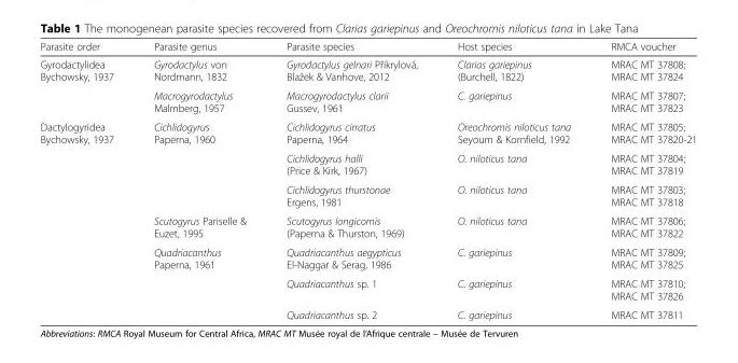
<table><thead><tr><td>Parasite order</td><td>Parasite genus</td><td>Parasite species</td><td>Host species</td><td>RMCA voucher</td></tr></thead><tbody><tr><td rowspan="2">Gyrodactylidea Bychowsky, 1937</td><td>Gyrodactylus von Nordmann, 1832</td><td>Gyrodactylus gelnari Přikrylová, Blažek &amp; Vanhove, 2012</td><td>Clarias gariepinus (Burchell, 1822)</td><td>MRAC MT 37808; MRAC MT 37824</td></tr><tr><td>Macrogyrodactylus Malmberg, 1957</td><td>Macrogyrodactylus clarii Gussev, 1961</td><td>C. gariepinus</td><td>MRAC MT 37807; MRAC MT 37823</td></tr><tr><td rowspan="7">Dactylogyridea Bychowsky, 1937</td><td>Cichlidogyrus Paperna, 1960</td><td>Cichlidogyrus cirratus Paperna, 1964</td><td>Oreochromis niloticus tana Seyoum &amp; Kornfield, 1992</td><td>MRAC MT 37805; MRAC MT 37820-21</td></tr><tr><td></td><td>Cichlidogyrus halli (Price &amp; Kirk, 1967)</td><td>O. niloticus tana</td><td>MRAC MT 37804; MRAC MT 37819</td></tr><tr><td></td><td>Cichlidogyrus thurstonae Ergens, 1981</td><td>O. niloticus tana</td><td>MRAC MT 37803; MRAC MT 37818</td></tr><tr><td>Scutogyrus Pariselle &amp; Euzet, 1995</td><td>Scutogyrus longicornis (Paperna &amp; Thurston, 1969)</td><td>O. niloticus tana</td><td>MRAC MT 37806; MRAC MT 37822</td></tr><tr><td>Quadriacanthus Paperna, 1961</td><td>Quadriacanthus aegypticus El-Naggar &amp; Serag, 1986</td><td>C. gariepinus</td><td>MRAC MT 37809; MRAC MT 37825</td></tr><tr><td></td><td>Quadriacanthus sp. 1</td><td>C. gariepinus</td><td>MRAC MT 37810; MRAC MT 37826</td></tr><tr><td></td><td>Quadriacanthus sp. 2</td><td>C. gariepinus</td><td>MRAC MT 37811</td></tr></tbody></table>